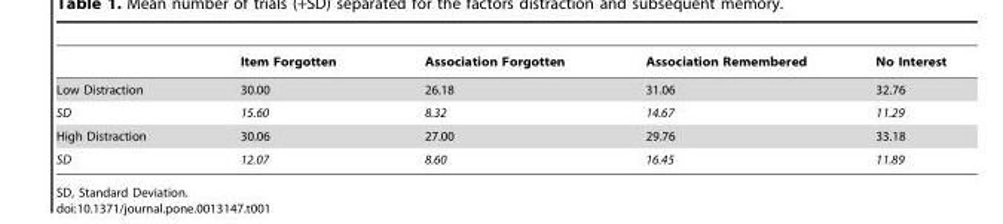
<table><thead><tr><td></td><td>Item Forgotten</td><td>Association Forgotten</td><td>Association Remembered</td><td>No Interest</td></tr></thead><tbody><tr><td>Low Distraction</td><td>30.00</td><td>26.18</td><td>31.06</td><td>32.76</td></tr><tr><td>SD</td><td>15.60</td><td>8.32</td><td>14.67</td><td>11.29</td></tr><tr><td>High Distraction</td><td>30.06</td><td>27.00</td><td>29.76</td><td>33.18</td></tr><tr><td>SD</td><td>12.07</td><td>8.60</td><td>16.45</td><td>11.89</td></tr></tbody></table>